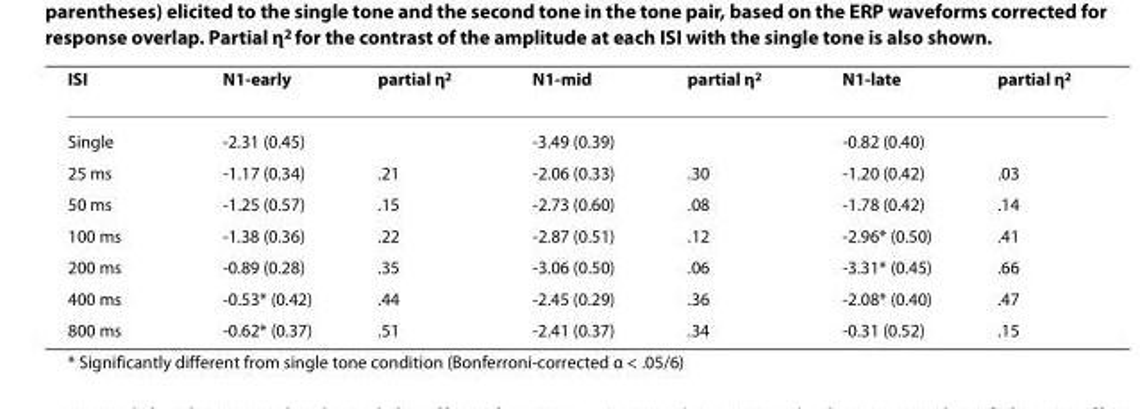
<table><thead><tr><td>ISI</td><td>N1-early</td><td>partial η<sup>2</sup></td><td>N1-mid</td><td>partial η<sup>2</sup></td><td>N1-late</td><td>partial η<sup>2</sup></td></tr></thead><tbody><tr><td>Single</td><td>-2.31 (0.45)</td><td></td><td>-3.49 (0.39)</td><td></td><td>-0.82 (0.40)</td><td></td></tr><tr><td>25 ms</td><td>-1.17 (0.34)</td><td>.21</td><td>-2.06 (0.33)</td><td>.30</td><td>-1.20 (0.42)</td><td>.03</td></tr><tr><td>50 ms</td><td>-1.25 (0.57)</td><td>.15</td><td>-2.73 (0.60)</td><td>.08</td><td>-1.78 (0.42)</td><td>.14</td></tr><tr><td>100 ms</td><td>-1.38 (0.36)</td><td>.22</td><td>-2.87 (0.51)</td><td>.12</td><td>-2.96* (0.50)</td><td>.41</td></tr><tr><td>200 ms</td><td>-0.89 (0.28)</td><td>.35</td><td>-3.06 (0.50)</td><td>.06</td><td>-3.31* (0.45)</td><td>.66</td></tr><tr><td>400 ms</td><td>-0.53* (0.42)</td><td>.44</td><td>-2.45 (0.29)</td><td>.36</td><td>-2.08* (0.40)</td><td>.47</td></tr><tr><td>800 ms</td><td>-0.62* (0.37)</td><td>.51</td><td>-2.41 (0.37)</td><td>.34</td><td>-0.31 (0.52)</td><td>.15</td></tr></tbody></table>